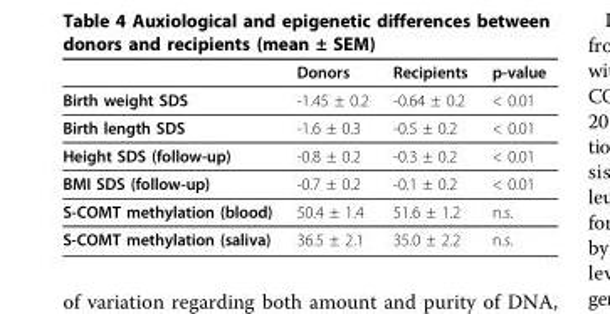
<table><thead><tr><td></td><td>Donors</td><td>Recipients</td><td>p-value</td></tr></thead><tbody><tr><td>Birth weight SDS</td><td>-1.45 ± 0.2</td><td>-0.64 ± 0.2</td><td>&lt; 0.01</td></tr><tr><td>Birth length SDS</td><td>-1.6 ± 0.3</td><td>-0.5 ± 0.2</td><td>&lt; 0.01</td></tr><tr><td>Height SDS (follow-up)</td><td>-0.8 ± 0.2</td><td>-0.3 ± 0.2</td><td>&lt; 0.01</td></tr><tr><td>BMI SDS (follow-up)</td><td>-0.7 ± 0.2</td><td>-0.1 ± 0.2</td><td>&lt; 0.01</td></tr><tr><td>S-COMT methylation (blood)</td><td>50.4 ± 1.4</td><td>51.6 ± 1.2</td><td>n.s.</td></tr><tr><td>S-COMT methylation (saliva)</td><td>36.5 ± 2.1</td><td>35.0 ± 2.2</td><td>n.s.</td></tr></tbody></table>